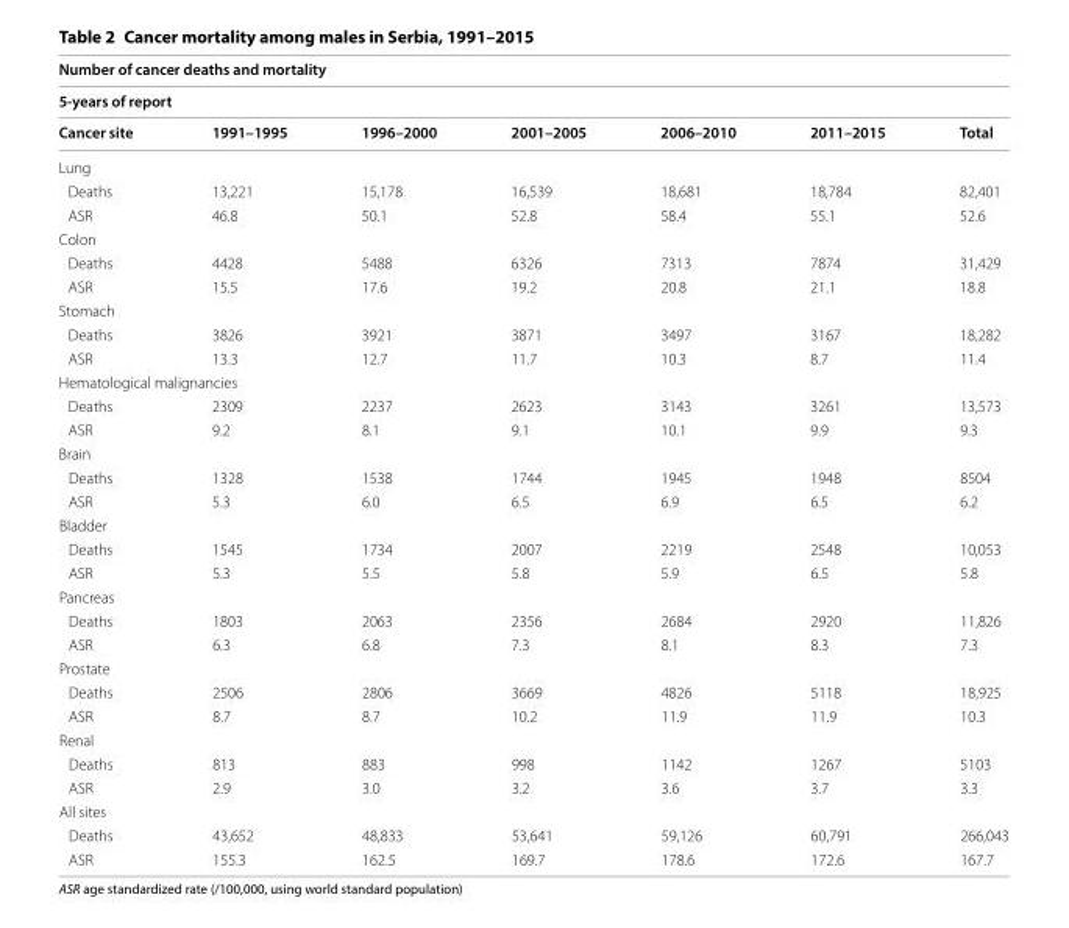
<table><thead><tr><td rowspan="2" colspan="7">Number of cancer deaths and mortality 5‑years of report</td></tr><tr></tr><tr><td>Cancer site</td><td>1991–1995</td><td>1996–2000</td><td>2001–2005</td><td>2006–2010</td><td>2011–2015</td><td>Total</td></tr></thead><tbody><tr><td colspan="7">Lung</td></tr><tr><td>Deaths</td><td>13,221</td><td>15,178</td><td>16,539</td><td>18,681</td><td>18,784</td><td>82,401</td></tr><tr><td>ASR</td><td>46.8</td><td>50.1</td><td>52.8</td><td>58.4</td><td>55.1</td><td>52.6</td></tr><tr><td colspan="7">Colon</td></tr><tr><td>Deaths</td><td>4428</td><td>5488</td><td>6326</td><td>7313</td><td>7874</td><td>31,429</td></tr><tr><td>ASR</td><td>15.5</td><td>17.6</td><td>19.2</td><td>20.8</td><td>21.1</td><td>18.8</td></tr><tr><td colspan="7">Stomach</td></tr><tr><td>Deaths</td><td>3826</td><td>3921</td><td>3871</td><td>3497</td><td>3167</td><td>18,282</td></tr><tr><td>ASR</td><td>13.3</td><td>12.7</td><td>11.7</td><td>10.3</td><td>8.7</td><td>11.4</td></tr><tr><td colspan="7">Hematological malignancies</td></tr><tr><td>Deaths</td><td>2309</td><td>2237</td><td>2623</td><td>3143</td><td>3261</td><td>13,573</td></tr><tr><td>ASR</td><td>9.2</td><td>8.1</td><td>9.1</td><td>10.1</td><td>9.9</td><td>9.3</td></tr><tr><td colspan="7">Brain</td></tr><tr><td>Deaths</td><td>1328</td><td>1538</td><td>1744</td><td>1945</td><td>1948</td><td>8504</td></tr><tr><td>ASR</td><td>5.3</td><td>6.0</td><td>6.5</td><td>6.9</td><td>6.5</td><td>6.2</td></tr><tr><td colspan="7">Bladder</td></tr><tr><td>Deaths</td><td>1545</td><td>1734</td><td>2007</td><td>2219</td><td>2548</td><td>10,053</td></tr><tr><td>ASR</td><td>5.3</td><td>5.5</td><td>5.8</td><td>5.9</td><td>6.5</td><td>5.8</td></tr><tr><td colspan="7">Pancreas</td></tr><tr><td>Deaths</td><td>1803</td><td>2063</td><td>2356</td><td>2684</td><td>2920</td><td>11,826</td></tr><tr><td>ASR</td><td>6.3</td><td>6.8</td><td>7.3</td><td>8.1</td><td>8.3</td><td>7.3</td></tr><tr><td colspan="7">Prostate</td></tr><tr><td>Deaths</td><td>2506</td><td>2806</td><td>3669</td><td>4826</td><td>5118</td><td>18,925</td></tr><tr><td>ASR</td><td>8.7</td><td>8.7</td><td>10.2</td><td>11.9</td><td>11.9</td><td>10.3</td></tr><tr><td colspan="7">Renal</td></tr><tr><td>Deaths</td><td>813</td><td>883</td><td>998</td><td>1142</td><td>1267</td><td>5103</td></tr><tr><td>ASR</td><td>2.9</td><td>3.0</td><td>3.2</td><td>3.6</td><td>3.7</td><td>3.3</td></tr><tr><td colspan="7">All sites</td></tr><tr><td>Deaths</td><td>43,652</td><td>48,833</td><td>53,641</td><td>59,126</td><td>60,791</td><td>266,043</td></tr><tr><td>ASR</td><td>155.3</td><td>162.5</td><td>169.7</td><td>178.6</td><td>172.6</td><td>167.7</td></tr></tbody></table>